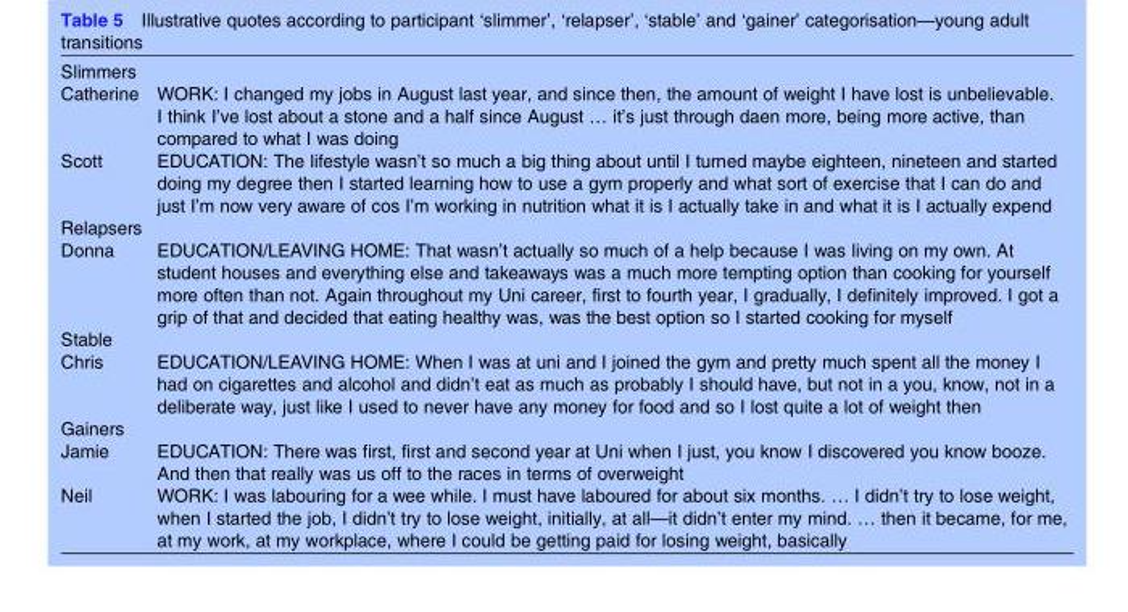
<table><tbody><tr><td colspan="2">Slimmers</td></tr><tr><td>Catherine</td><td>WORK: I changed my jobs in August last year, and since then, the amount of weight I have lost is unbelievable. I think I’ve lost about a stone and a half since August … it’s just through daen more, being more active, than compared to what I was doing</td></tr><tr><td>Scott</td><td>EDUCATION: The lifestyle wasn’t so much a big thing about until I turned maybe eighteen, nineteen and started doing my degree then I started learning how to use a gym properly and what sort of exercise that I can do and just I’m now very aware of cos I’m working in nutrition what it is I actually take in and what it is I actually expend</td></tr><tr><td colspan="2">Relapsers</td></tr><tr><td>Donna</td><td>EDUCATION/LEAVING HOME: That wasn’t actually so much of a help because I was living on my own. At student houses and everything else and takeaways was a much more tempting option than cooking for yourself more often than not. Again throughout my Uni career, first to fourth year, I gradually, I definitely improved. I got a grip of that and decided that eating healthy was, was the best option so I started cooking for myself</td></tr><tr><td colspan="2">Stable</td></tr><tr><td>Chris</td><td>EDUCATION/LEAVING HOME: When I was at uni and I joined the gym and pretty much spent all the money I had on cigarettes and alcohol and didn’t eat as much as probably I should have, but not in a you, know, not in a deliberate way, just like I used to never have any money for food and so I lost quite a lot of weight then</td></tr><tr><td colspan="2">Gainers</td></tr><tr><td>Jamie</td><td>EDUCATION: There was first, first and second year at Uni when I just, you know I discovered you know booze. And then that really was us off to the races in terms of overweight</td></tr><tr><td>Neil</td><td>WORK: I was labouring for a wee while. I must have laboured for about six months. … I didn’t try to lose weight, when I started the job, I didn’t try to lose weight, initially, at all—it didn’t enter my mind. … then it became, for me, at my work, at my workplace, where I could be getting paid for losing weight, basically</td></tr></tbody></table>